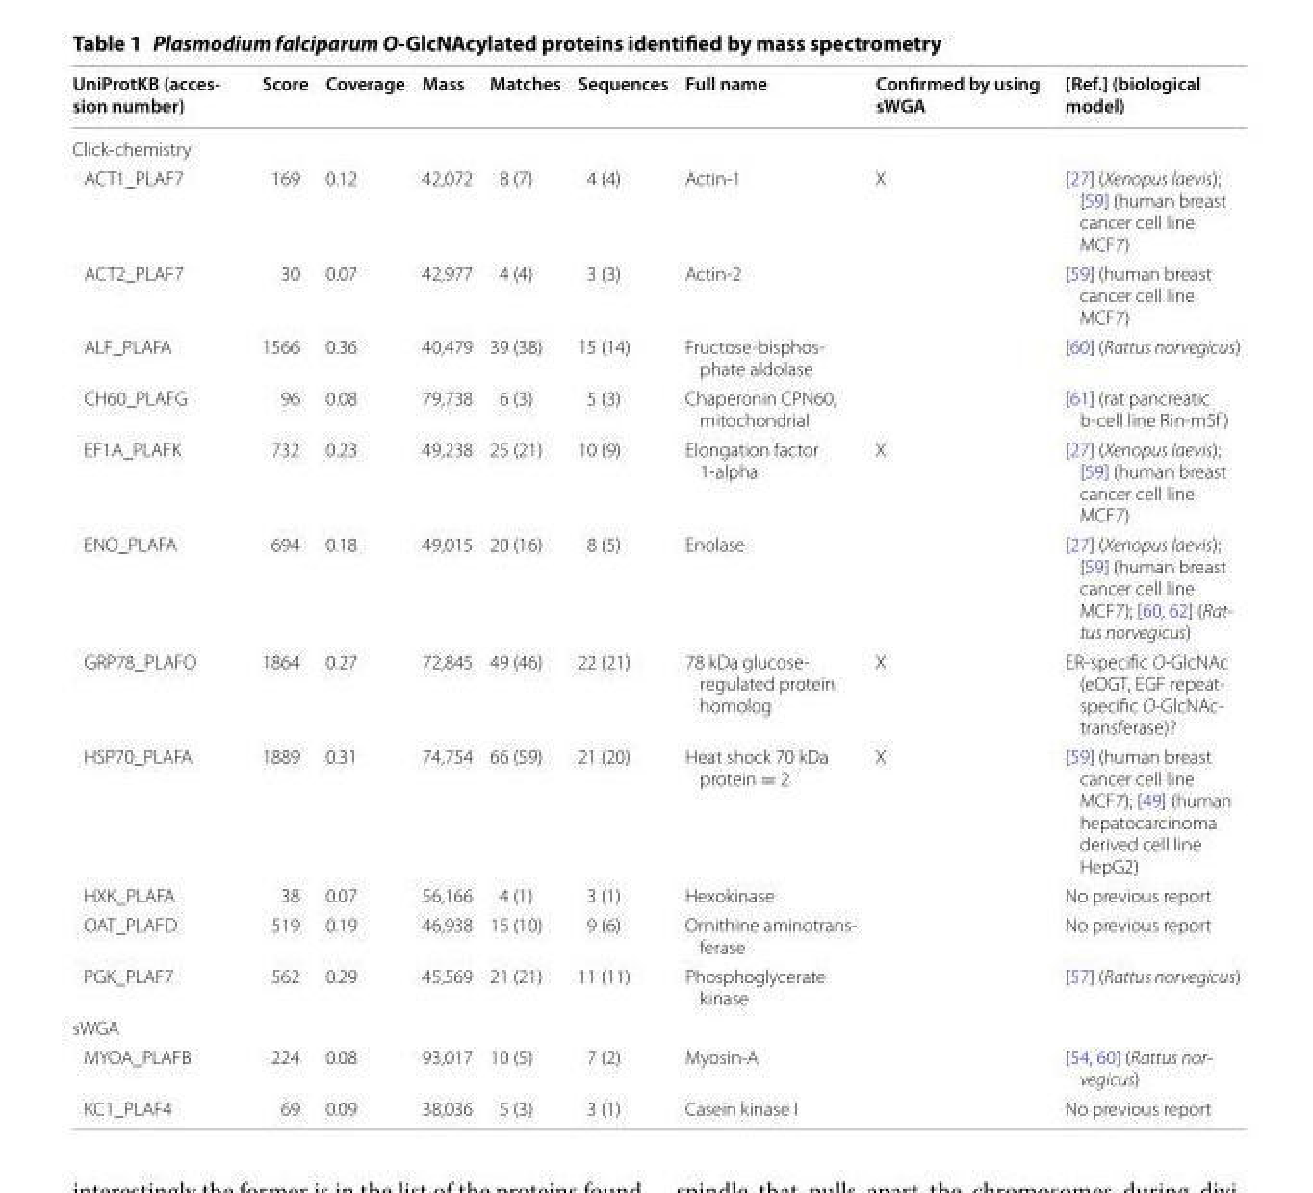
<table><thead><tr><td>UniProtKB (acces‑ sion number)</td><td>Score</td><td>Coverage</td><td>Mass</td><td>Matches</td><td>Sequences</td><td>Full name</td><td>Confirmed by using sWGA</td><td>[Ref.] (biological model)</td></tr></thead><tbody><tr><td colspan="9">Click‑chemistry</td></tr><tr><td>ACT1_PLAF7</td><td>169</td><td>0.12</td><td>42,072</td><td>8 (7)</td><td>4 (4)</td><td>Actin‑1</td><td>X</td><td>[27] (Xenopus laevis); [59] (human breast cancer cell line MCF7)</td></tr><tr><td>ACT2_PLAF7</td><td>30</td><td>0.07</td><td>42,977</td><td>4 (4)</td><td>3 (3)</td><td>Actin‑2</td><td></td><td>[59] (human breast cancer cell line MCF7)</td></tr><tr><td>ALF_PLAFA</td><td>1566</td><td>0.36</td><td>40,479</td><td>39 (38)</td><td>15 (14)</td><td>Fructose‑bisphos‑ phate aldolase</td><td></td><td>[60] (Rattus norvegicus)</td></tr><tr><td>CH60_PLAFG</td><td>96</td><td>0.08</td><td>79,738</td><td>6 (3)</td><td>5 (3)</td><td>Chaperonin CPN60, mitochondrial</td><td></td><td>[61] (rat pancreatic b‑cell line Rin‑m5f)</td></tr><tr><td>EF1A_PLAFK</td><td>732</td><td>0.23</td><td>49,238</td><td>25 (21)</td><td>10 (9)</td><td>Elongation factor 1‑alpha</td><td>X</td><td>[27] (Xenopus laevis); [59] (human breast cancer cell line MCF7)</td></tr><tr><td>ENO_PLAFA</td><td>694</td><td>0.18</td><td>49,015</td><td>20 (16)</td><td>8 (5)</td><td>Enolase</td><td></td><td>[27] (Xenopus laevis); [59] (human breast cancer cell line MCF7); [60, 62] (Rat- tus norvegicus)</td></tr><tr><td>GRP78_PLAFO</td><td>1864</td><td>0.27</td><td>72,845</td><td>49 (46)</td><td>22 (21)</td><td>78 kDa glucose‑ regulated protein homolog</td><td>X</td><td>ER‑specific O‑GlcNAc (eOGT, EGF repeat‑ specific O‑GlcNAc‑ transferase)?</td></tr><tr><td>HSP70_PLAFA</td><td>1889</td><td>0.31</td><td>74,754</td><td>66 (59)</td><td>21 (20)</td><td>Heat shock 70 kDa protein = 2</td><td>X</td><td>[59] (human breast cancer cell line MCF7); [49] (human hepatocarcinoma derived cell line HepG2)</td></tr><tr><td>HXK_PLAFA</td><td>38</td><td>0.07</td><td>56,166</td><td>4 (1)</td><td>3 (1)</td><td>Hexokinase</td><td></td><td>No previous report</td></tr><tr><td>OAT_PLAFD</td><td>519</td><td>0.19</td><td>46,938</td><td>15 (10)</td><td>9 (6)</td><td>Ornithine aminotrans‑ ferase</td><td></td><td>No previous report</td></tr><tr><td>PGK_PLAF7</td><td>562</td><td>0.29</td><td>45,569</td><td>21 (21)</td><td>11 (11)</td><td>Phosphoglycerate kinase</td><td></td><td>[57] (Rattus norvegicus)</td></tr><tr><td colspan="9">sWGA</td></tr><tr><td>MYOA_PLAFB</td><td>224</td><td>0.08</td><td>93,017</td><td>10 (5)</td><td>7 (2)</td><td>Myosin‑A</td><td></td><td>[54, 60] (Rattus nor- vegicus)</td></tr><tr><td>KC1_PLAF4</td><td>69</td><td>0.09</td><td>38,036</td><td>5 (3)</td><td>3 (1)</td><td>Casein kinase I</td><td></td><td>No previous report</td></tr></tbody></table>